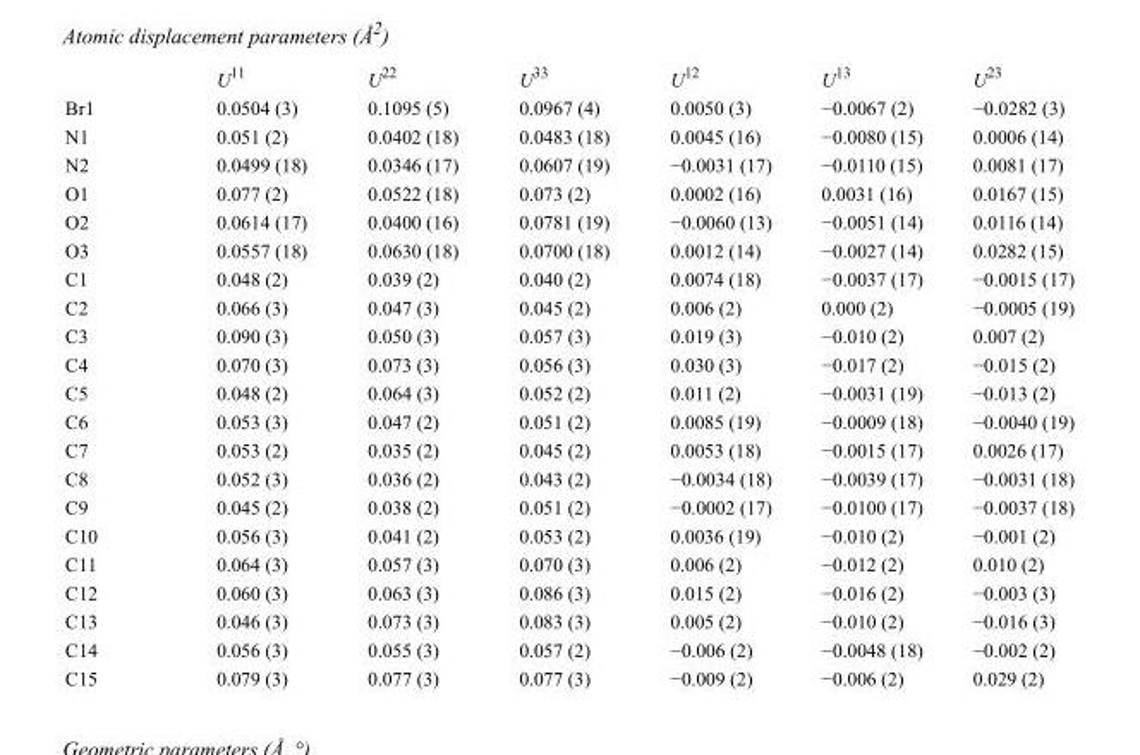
<table><thead><tr><td></td><td>U<sup>11</sup></td><td>U<sup>22</sup></td><td>U<sup>33</sup></td><td>U<sup>12</sup></td><td>U<sup>13</sup></td><td>U<sup>23</sup></td></tr></thead><tbody><tr><td>Br1</td><td>0.0504 (3)</td><td>0.1095 (5)</td><td>0.0967 (4)</td><td>0.0050 (3)</td><td>−0.0067 (2)</td><td>−0.0282 (3)</td></tr><tr><td>N1</td><td>0.051 (2)</td><td>0.0402 (18)</td><td>0.0483 (18)</td><td>0.0045 (16)</td><td>−0.0080 (15)</td><td>0.0006 (14)</td></tr><tr><td>N2</td><td>0.0499 (18)</td><td>0.0346 (17)</td><td>0.0607 (19)</td><td>−0.0031 (17)</td><td>−0.0110 (15)</td><td>0.0081 (17)</td></tr><tr><td>O1</td><td>0.077 (2)</td><td>0.0522 (18)</td><td>0.073 (2)</td><td>0.0002 (16)</td><td>0.0031 (16)</td><td>0.0167 (15)</td></tr><tr><td>O2</td><td>0.0614 (17)</td><td>0.0400 (16)</td><td>0.0781 (19)</td><td>−0.0060 (13)</td><td>−0.0051 (14)</td><td>0.0116 (14)</td></tr><tr><td>O3</td><td>0.0557 (18)</td><td>0.0630 (18)</td><td>0.0700 (18)</td><td>0.0012 (14)</td><td>−0.0027 (14)</td><td>0.0282 (15)</td></tr><tr><td>C1</td><td>0.048 (2)</td><td>0.039 (2)</td><td>0.040 (2)</td><td>0.0074 (18)</td><td>−0.0037 (17)</td><td>−0.0015 (17)</td></tr><tr><td>C2</td><td>0.066 (3)</td><td>0.047 (3)</td><td>0.045 (2)</td><td>0.006 (2)</td><td>0.000 (2)</td><td>−0.0005 (19)</td></tr><tr><td>C3</td><td>0.090 (3)</td><td>0.050 (3)</td><td>0.057 (3)</td><td>0.019 (3)</td><td>−0.010 (2)</td><td>0.007 (2)</td></tr><tr><td>C4</td><td>0.070 (3)</td><td>0.073 (3)</td><td>0.056 (3)</td><td>0.030 (3)</td><td>−0.017 (2)</td><td>−0.015 (2)</td></tr><tr><td>C5</td><td>0.048 (2)</td><td>0.064 (3)</td><td>0.052 (2)</td><td>0.011 (2)</td><td>−0.0031 (19)</td><td>−0.013 (2)</td></tr><tr><td>C6</td><td>0.053 (3)</td><td>0.047 (2)</td><td>0.051 (2)</td><td>0.0085 (19)</td><td>−0.0009 (18)</td><td>−0.0040 (19)</td></tr><tr><td>C7</td><td>0.053 (2)</td><td>0.035 (2)</td><td>0.045 (2)</td><td>0.0053 (18)</td><td>−0.0015 (17)</td><td>0.0026 (17)</td></tr><tr><td>C8</td><td>0.052 (3)</td><td>0.036 (2)</td><td>0.043 (2)</td><td>−0.0034 (18)</td><td>−0.0039 (17)</td><td>−0.0031 (18)</td></tr><tr><td>C9</td><td>0.045 (2)</td><td>0.038 (2)</td><td>0.051 (2)</td><td>−0.0002 (17)</td><td>−0.0100 (17)</td><td>−0.0037 (18)</td></tr><tr><td>C10</td><td>0.056 (3)</td><td>0.041 (2)</td><td>0.053 (2)</td><td>0.0036 (19)</td><td>−0.010 (2)</td><td>−0.001 (2)</td></tr><tr><td>C11</td><td>0.064 (3)</td><td>0.057 (3)</td><td>0.070 (3)</td><td>0.006 (2)</td><td>−0.012 (2)</td><td>0.010 (2)</td></tr><tr><td>C12</td><td>0.060 (3)</td><td>0.063 (3)</td><td>0.086 (3)</td><td>0.015 (2)</td><td>−0.016 (2)</td><td>−0.003 (3)</td></tr><tr><td>C13</td><td>0.046 (3)</td><td>0.073 (3)</td><td>0.083 (3)</td><td>0.005 (2)</td><td>−0.010 (2)</td><td>−0.016 (3)</td></tr><tr><td>C14</td><td>0.056 (3)</td><td>0.055 (3)</td><td>0.057 (2)</td><td>−0.006 (2)</td><td>−0.0048 (18)</td><td>−0.002 (2)</td></tr><tr><td>C15</td><td>0.079 (3)</td><td>0.077 (3)</td><td>0.077 (3)</td><td>−0.009 (2)</td><td>−0.006 (2)</td><td>0.029 (2)</td></tr></tbody></table>